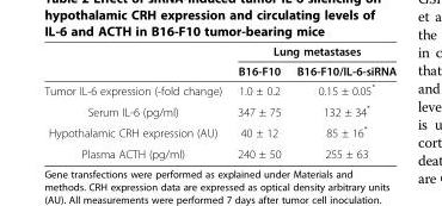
<table><thead><tr><td rowspan="2"></td><td colspan="2">Lung metastases</td></tr><tr><td>B16-F10</td><td>B16-F10/IL-6-siRNA</td></tr></thead><tbody><tr><td>Tumor IL-6 expression (-fold change)</td><td>1.0 ± 0.2</td><td>0.15 ± 0.05*</td></tr><tr><td>Serum IL-6 (pg/ml)</td><td>347 ± 75</td><td>132 ± 34*</td></tr><tr><td>Hypothalamic CRH expression (AU)</td><td>40 ± 12</td><td>85 ± 16*</td></tr><tr><td>Plasma ACTH (pg/ml)</td><td>240 ± 50</td><td>255 ± 63</td></tr></tbody></table>